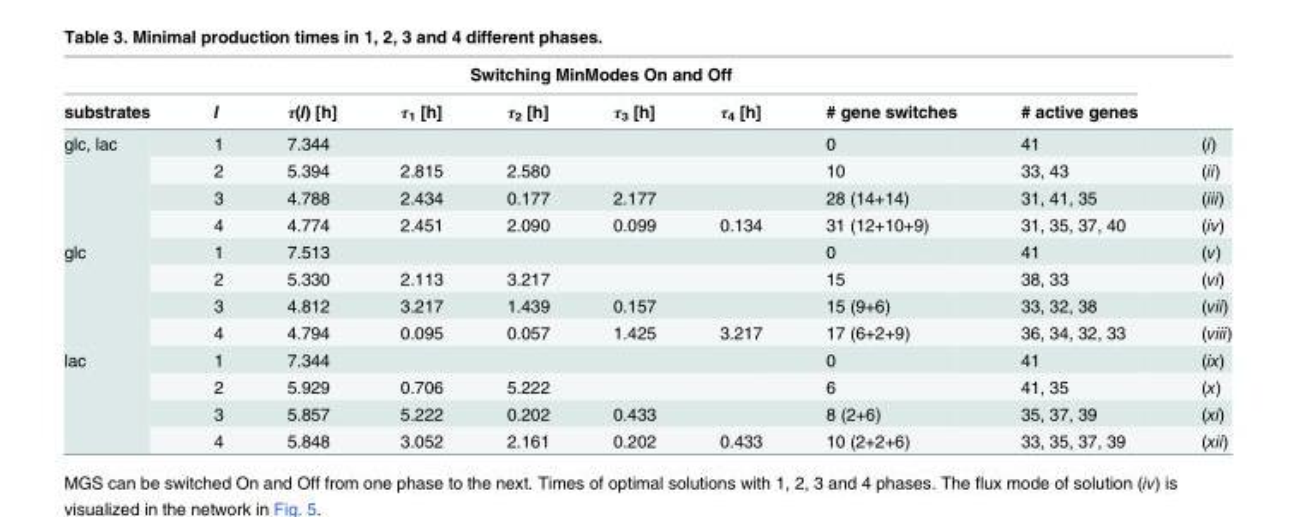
<table><thead><tr><td colspan="9">Switching MinModes On and Off</td><td rowspan="2"></td></tr><tr><td>substrates</td><td>l</td><td>τ(l) [h]</td><td>τ<sub>1</sub> [h]</td><td>τ<sub>2</sub> [h]</td><td>τ<sub>3</sub> [h]</td><td>τ<sub>4</sub> [h]</td><td># gene switches</td><td># active genes</td></tr></thead><tbody><tr><td rowspan="4">glc, lac</td><td>1</td><td>7.344</td><td></td><td></td><td></td><td></td><td>0</td><td>41</td><td>(i)</td></tr><tr><td>2</td><td>5.394</td><td>2.815</td><td>2.580</td><td></td><td></td><td>10</td><td>33, 43</td><td>(ii)</td></tr><tr><td>3</td><td>4.788</td><td>2.434</td><td>0.177</td><td>2.177</td><td></td><td>28 (14+14)</td><td>31, 41, 35</td><td>(iii)</td></tr><tr><td>4</td><td>4.774</td><td>2.451</td><td>2.090</td><td>0.099</td><td>0.134</td><td>31 (12+10+9)</td><td>31, 35, 37, 40</td><td>(iv)</td></tr><tr><td rowspan="4">glc</td><td>1</td><td>7.513</td><td></td><td></td><td></td><td></td><td>0</td><td>41</td><td>(v)</td></tr><tr><td>2</td><td>5.330</td><td>2.113</td><td>3.217</td><td></td><td></td><td>15</td><td>38, 33</td><td>(vi)</td></tr><tr><td>3</td><td>4.812</td><td>3.217</td><td>1.439</td><td>0.157</td><td></td><td>15 (9+6)</td><td>33, 32, 38</td><td>(vii)</td></tr><tr><td>4</td><td>4.794</td><td>0.095</td><td>0.057</td><td>1.425</td><td>3.217</td><td>17 (6+2+9)</td><td>36, 34, 32, 33</td><td>(viii)</td></tr><tr><td rowspan="4">lac</td><td>1</td><td>7.344</td><td></td><td></td><td></td><td></td><td>0</td><td>41</td><td>(ix)</td></tr><tr><td>2</td><td>5.929</td><td>0.706</td><td>5.222</td><td></td><td></td><td>6</td><td>41, 35</td><td>(x)</td></tr><tr><td>3</td><td>5.857</td><td>5.222</td><td>0.202</td><td>0.433</td><td></td><td>8 (2+6)</td><td>35, 37, 39</td><td>(xi)</td></tr><tr><td>4</td><td>5.848</td><td>3.052</td><td>2.161</td><td>0.202</td><td>0.433</td><td>10 (2+2+6)</td><td>33, 35, 37, 39</td><td>(xii)</td></tr></tbody></table>